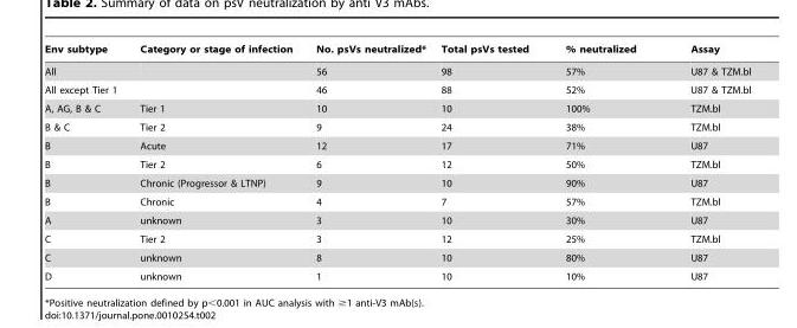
<table><thead><tr><td>Env subtype</td><td>Category or stage of infection</td><td>No. psVs neutralized*</td><td>Total psVs tested</td><td>% neutralized</td><td>Assay</td></tr></thead><tbody><tr><td>All</td><td></td><td>56</td><td>98</td><td>57%</td><td>U87 &amp; TZM.bl</td></tr><tr><td>All except Tier 1</td><td></td><td>46</td><td>88</td><td>52%</td><td>U87 &amp; TZM.bl</td></tr><tr><td>A, AG, B &amp; C</td><td>Tier 1</td><td>10</td><td>10</td><td>100%</td><td>TZM.bl</td></tr><tr><td>B &amp; C</td><td>Tier 2</td><td>9</td><td>24</td><td>38%</td><td>TZM.bl</td></tr><tr><td>B</td><td>Acute</td><td>12</td><td>17</td><td>71%</td><td>U87</td></tr><tr><td>B</td><td>Tier 2</td><td>6</td><td>12</td><td>50%</td><td>TZM.bl</td></tr><tr><td>B</td><td>Chronic (Progressor &amp; LTNP)</td><td>9</td><td>10</td><td>90%</td><td>U87</td></tr><tr><td>B</td><td>Chronic</td><td>4</td><td>7</td><td>57%</td><td>TZM.bl</td></tr><tr><td>A</td><td>unknown</td><td>3</td><td>10</td><td>30%</td><td>U87</td></tr><tr><td>C</td><td>Tier 2</td><td>3</td><td>12</td><td>25%</td><td>TZM.bl</td></tr><tr><td>C</td><td>unknown</td><td>8</td><td>10</td><td>80%</td><td>U87</td></tr><tr><td>D</td><td>unknown</td><td>1</td><td>10</td><td>10%</td><td>U87</td></tr></tbody></table>